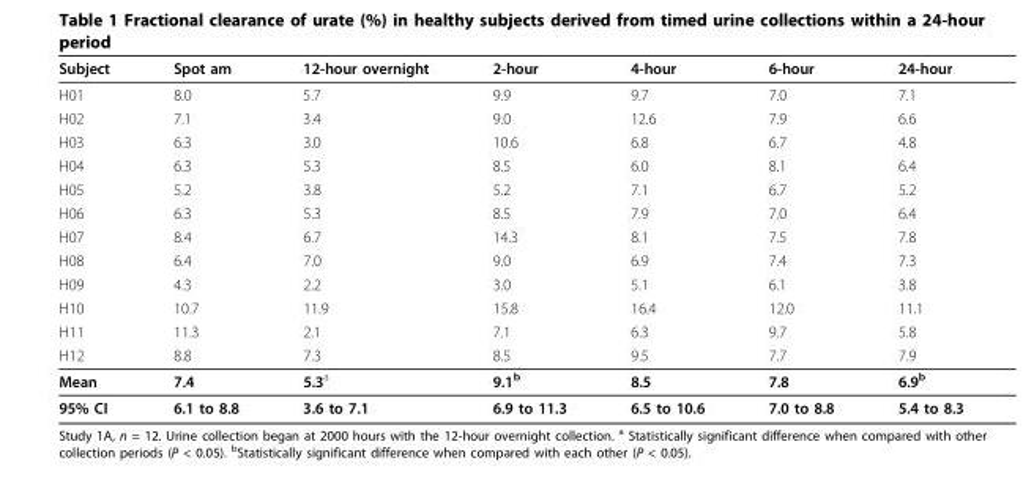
<table><thead><tr><td>Subject</td><td>Spot am</td><td>12-hour overnight</td><td>2-hour</td><td>4-hour</td><td>6-hour</td><td>24-hour</td></tr></thead><tbody><tr><td>H01</td><td>8.0</td><td>5.7</td><td>9.9</td><td>9.7</td><td>7.0</td><td>7.1</td></tr><tr><td>H02</td><td>7.1</td><td>3.4</td><td>9.0</td><td>12.6</td><td>7.9</td><td>6.6</td></tr><tr><td>H03</td><td>6.3</td><td>3.0</td><td>10.6</td><td>6.8</td><td>6.7</td><td>4.8</td></tr><tr><td>H04</td><td>6.3</td><td>5.3</td><td>8.5</td><td>6.0</td><td>8.1</td><td>6.4</td></tr><tr><td>H05</td><td>5.2</td><td>3.8</td><td>5.2</td><td>7.1</td><td>6.7</td><td>5.2</td></tr><tr><td>H06</td><td>6.3</td><td>5.3</td><td>8.5</td><td>7.9</td><td>7.0</td><td>6.4</td></tr><tr><td>H07</td><td>8.4</td><td>6.7</td><td>14.3</td><td>8.1</td><td>7.5</td><td>7.8</td></tr><tr><td>H08</td><td>6.4</td><td>7.0</td><td>9.0</td><td>6.9</td><td>7.4</td><td>7.3</td></tr><tr><td>H09</td><td>4.3</td><td>2.2</td><td>3.0</td><td>5.1</td><td>6.1</td><td>3.8</td></tr><tr><td>H10</td><td>10.7</td><td>11.9</td><td>15.8</td><td>16.4</td><td>12.0</td><td>11.1</td></tr><tr><td>H11</td><td>11.3</td><td>2.1</td><td>7.1</td><td>6.3</td><td>9.7</td><td>5.8</td></tr><tr><td>H12</td><td>8.8</td><td>7.3</td><td>8.5</td><td>9.5</td><td>7.7</td><td>7.9</td></tr><tr><td>Mean</td><td>7.4</td><td>5.3<sup>a</sup></td><td>9.1<sup>b</sup></td><td>8.5</td><td>7.8</td><td>6.9<sup>b</sup></td></tr><tr><td>95% CI</td><td>6.1 to 8.8</td><td>3.6 to 7.1</td><td>6.9 to 11.3</td><td>6.5 to 10.6</td><td>7.0 to 8.8</td><td>5.4 to 8.3</td></tr></tbody></table>